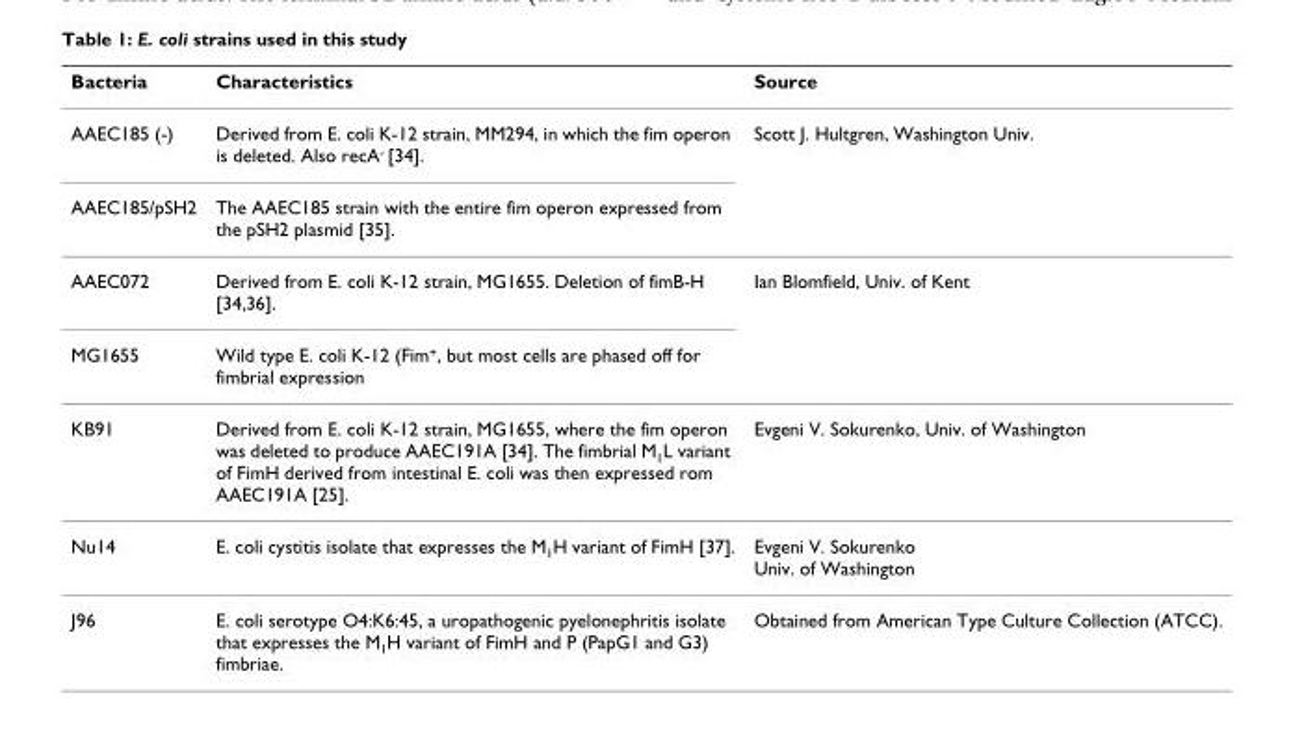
<table><thead><tr><td>Bacteria</td><td>Characteristics</td><td>Source</td></tr></thead><tbody><tr><td>AAEC185 (-)</td><td>Derived from E. coli K-12 strain, MM294, in which the fim operon is deleted. Also recA<sup>-</sup> [34].</td><td>Scott J. Hultgren, Washington Univ.</td></tr><tr><td>AAEC185/pSH2</td><td>The AAEC185 strain with the entire fim operon expressed from the pSH2 plasmid [35].</td><td></td></tr><tr><td>AAEC072</td><td>Derived from E. coli K-12 strain, MG1655. Deletion of fimB-H [34,36].</td><td>Ian Blomfield, Univ. of Kent</td></tr><tr><td>MG1655</td><td>Wild type E. coli K-12 (Fim<sup>+</sup>, but most cells are phased off for fimbrial expression</td><td></td></tr><tr><td>KB91</td><td>Derived from E. coli K-12 strain, MG1655, where the fim operon was deleted to produce AAEC191A [34]. The fimbrial M<sub>1</sub>L variant of FimH derived from intestinal E. coli was then expressed rom AAEC191A [25].</td><td>Evgeni V. Sokurenko, Univ. of Washington</td></tr><tr><td>Nu14</td><td>E. coli cystitis isolate that expresses the M<sub>1</sub>H variant of FimH [37].</td><td>Evgeni V. Sokurenko Univ. of Washington</td></tr><tr><td>J96</td><td>E. coli serotype O4:K6:45, a uropathogenic pyelonephritis isolate that expresses the M<sub>1</sub>H variant of FimH and P (PapG1 and G3) fimbriae.</td><td>Obtained from American Type Culture Collection (ATCC).</td></tr></tbody></table>